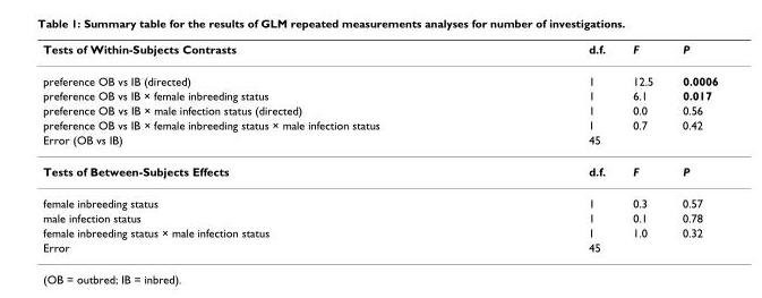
<table><thead><tr><td>Tests of Within-Subjects Contrasts</td><td>d.f.</td><td>F</td><td>P</td></tr></thead><tbody><tr><td>preference OB vs IB (directed)</td><td>1</td><td>12.5</td><td>0.0006</td></tr><tr><td>preference OB vs IB × female inbreeding status</td><td>1</td><td>6.1</td><td>0.017</td></tr><tr><td>preference OB vs IB × male infection status (directed)</td><td>1</td><td>0.0</td><td>0.56</td></tr><tr><td>preference OB vs IB × female inbreeding status × male infection status</td><td>1</td><td>0.7</td><td>0.42</td></tr><tr><td>Error (OB vs IB)</td><td>45</td><td></td><td></td></tr><tr><td>Tests of Between-Subjects Effects</td><td>d.f.</td><td>F</td><td>P</td></tr><tr><td>female inbreeding status</td><td>1</td><td>0.3</td><td>0.57</td></tr><tr><td>male infection status</td><td>1</td><td>0.1</td><td>0.78</td></tr><tr><td>female inbreeding status × male infection status</td><td>1</td><td>1.0</td><td>0.32</td></tr><tr><td>Error</td><td>45</td><td></td><td></td></tr></tbody></table>